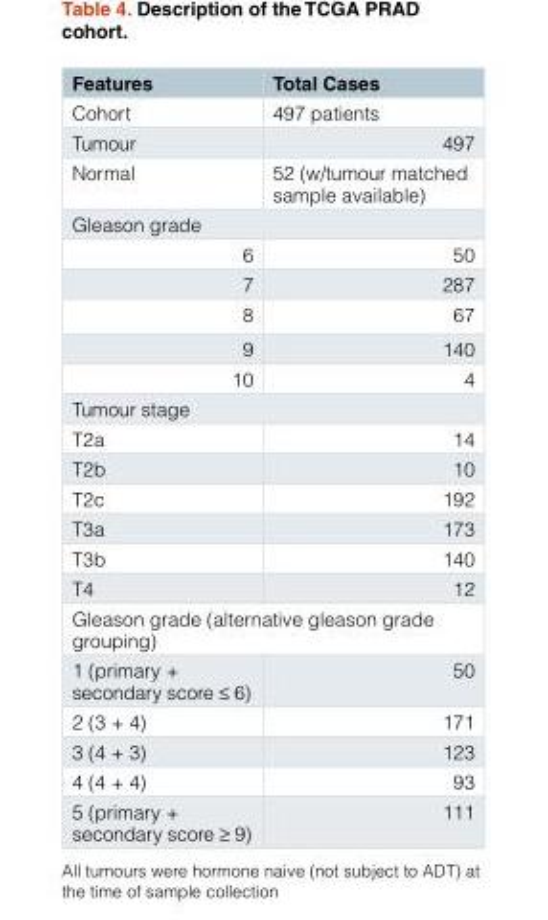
<table><thead><tr><td>Features</td><td>Total Cases</td></tr></thead><tbody><tr><td>Cohort</td><td>497 patients</td></tr><tr><td>Tumour</td><td>497</td></tr><tr><td>Normal</td><td>52 (w/tumour matched sample available)</td></tr><tr><td colspan="2">Gleason grade</td></tr><tr><td>6</td><td>50</td></tr><tr><td>7</td><td>287</td></tr><tr><td>8</td><td>67</td></tr><tr><td>9</td><td>140</td></tr><tr><td>10</td><td>4</td></tr><tr><td colspan="2">Tumour stage</td></tr><tr><td>T2a</td><td>14</td></tr><tr><td>T2b</td><td>10</td></tr><tr><td>T2c</td><td>192</td></tr><tr><td>T3a</td><td>173</td></tr><tr><td>T3b</td><td>140</td></tr><tr><td>T4</td><td>12</td></tr><tr><td colspan="2">Gleason grade (alternative gleason grade grouping)</td></tr><tr><td>1 (primary + secondary score ≤ 6)</td><td>50</td></tr><tr><td>2 (3 + 4)</td><td>171</td></tr><tr><td>3 (4 + 3)</td><td>123</td></tr><tr><td>4 (4 + 4)</td><td>93</td></tr><tr><td>5 (primary + secondary score ≥ 9)</td><td>111</td></tr></tbody></table>